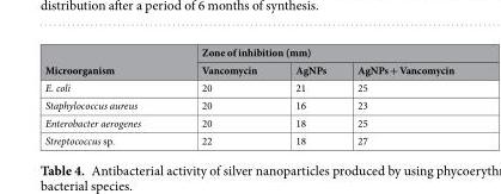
<table><thead><tr><td rowspan="2">Microorganism</td><td colspan="3">Zone of inhibition (mm)</td></tr><tr><td>Vancomycin</td><td>AgNPs</td><td>AgNPs + Vancomycin</td></tr></thead><tbody><tr><td>E. coli</td><td>20</td><td>21</td><td>25</td></tr><tr><td>Staphylococcus aureus</td><td>20</td><td>16</td><td>23</td></tr><tr><td>Enterobacter aerogenes</td><td>20</td><td>18</td><td>25</td></tr><tr><td>Streptococcus sp.</td><td>22</td><td>18</td><td>27</td></tr></tbody></table>